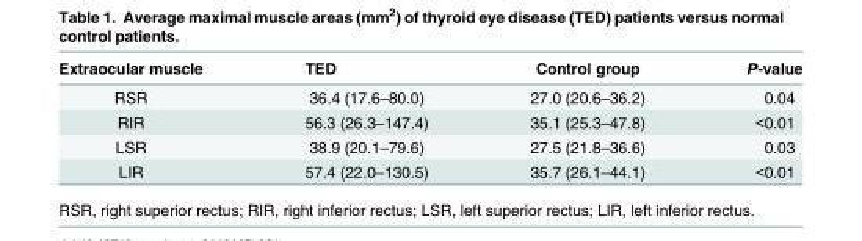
<table><thead><tr><td>Extraocular muscle</td><td>TED</td><td>Control group</td><td>P-value</td></tr></thead><tbody><tr><td>RSR</td><td>36.4 (17.6–80.0)</td><td>27.0 (20.6–36.2)</td><td>0.04</td></tr><tr><td>RIR</td><td>56.3 (26.3–147.4)</td><td>35.1 (25.3–47.8)</td><td>&lt;0.01</td></tr><tr><td>LSR</td><td>38.9 (20.1–79.6)</td><td>27.5 (21.8–36.6)</td><td>0.03</td></tr><tr><td>LIR</td><td>57.4 (22.0–130.5)</td><td>35.7 (26.1–44.1)</td><td>&lt;0.01</td></tr></tbody></table>